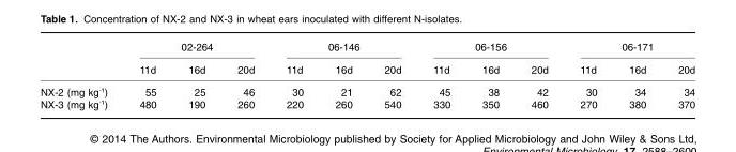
<table><thead><tr><td rowspan="2"></td><td colspan="3">02-264</td><td colspan="3">06-146</td><td colspan="3">06-156</td><td colspan="3">06-171</td></tr><tr><td>11d</td><td>16d</td><td>20d</td><td>11d</td><td>16d</td><td>20d</td><td>11d</td><td>16d</td><td>20d</td><td>11d</td><td>16d</td><td>20d</td></tr></thead><tbody><tr><td>NX-2 (mg kg<sup>‒1</sup>)</td><td>55</td><td>25</td><td>46</td><td>30</td><td>21</td><td>62</td><td>45</td><td>38</td><td>42</td><td>30</td><td>34</td><td>34</td></tr><tr><td>NX-3 (mg kg<sup>‒1</sup>)</td><td>480</td><td>190</td><td>260</td><td>220</td><td>260</td><td>540</td><td>330</td><td>350</td><td>460</td><td>270</td><td>380</td><td>370</td></tr></tbody></table>